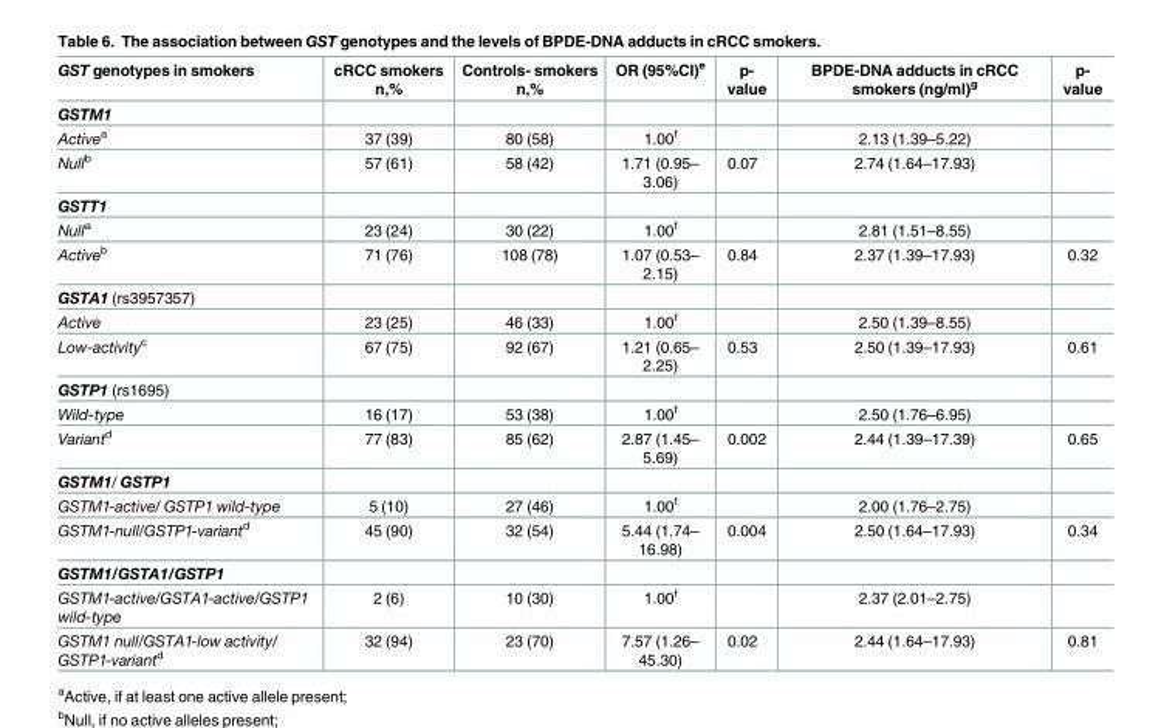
<table><thead><tr><td>GST genotypes in smokers</td><td>cRCC smokers n,%</td><td>Controls- smokers n,%</td><td>OR (95%CI)e</td><td>p- value</td><td>BPDE-DNA adducts in cRCC smokers (ng/ml)g</td><td>p- value</td></tr></thead><tbody><tr><td colspan="7">GSTM1</td></tr><tr><td>Activea</td><td>37 (39)</td><td>80 (58)</td><td>1.00f</td><td></td><td>2.13 (1.39–5.22)</td><td></td></tr><tr><td>Nullb</td><td>57 (61)</td><td>58 (42)</td><td>1.71 (0.95– 3.06)</td><td>0.07</td><td>2.74 (1.64–17.93)</td><td></td></tr><tr><td colspan="7">GSTT1</td></tr><tr><td>Nulla</td><td>23 (24)</td><td>30 (22)</td><td>1.00f</td><td></td><td>2.81 (1.51–8.55)</td><td></td></tr><tr><td>Activeb</td><td>71 (76)</td><td>108 (78)</td><td>1.07 (0.53– 2.15)</td><td>0.84</td><td>2.37 (1.39–17.93)</td><td>0.32</td></tr><tr><td colspan="7">GSTA1 (rs3957357)</td></tr><tr><td>Active</td><td>23 (25)</td><td>46 (33)</td><td>1.00f</td><td></td><td>2.50 (1.39–8.55)</td><td></td></tr><tr><td>Low-activityc</td><td>67 (75)</td><td>92 (67)</td><td>1.21 (0.65– 2.25)</td><td>0.53</td><td>2.50 (1.39–17.93)</td><td>0.61</td></tr><tr><td colspan="7">GSTP1 (rs1695)</td></tr><tr><td>Wild-type</td><td>16 (17)</td><td>53 (38)</td><td>1.00f</td><td></td><td>2.50 (1.76–6.95)</td><td></td></tr><tr><td>Variantd</td><td>77 (83)</td><td>85 (62)</td><td>2.87 (1.45– 5.69)</td><td>0.002</td><td>2.44 (1.39–17.39)</td><td>0.65</td></tr><tr><td colspan="7">GSTM1/ GSTP1</td></tr><tr><td>GSTM1-active/ GSTP1 wild-type</td><td>5 (10)</td><td>27 (46)</td><td>1.00f</td><td></td><td>2.00 (1.76–2.75)</td><td></td></tr><tr><td>GSTM1-null/GSTP1-variantd</td><td>45 (90)</td><td>32 (54)</td><td>5.44 (1.74– 16.98)</td><td>0.004</td><td>2.50 (1.64–17.93)</td><td>0.34</td></tr><tr><td colspan="7">GSTM1/GSTA1/GSTP1</td></tr><tr><td>GSTM1-active/GSTA1-active/GSTP1 wild-type</td><td>2 (6)</td><td>10 (30)</td><td>1.00f</td><td></td><td>2.37 (2.01–2.75)</td><td></td></tr><tr><td>GSTM1 null/GSTA1-low activity/ GSTP1-variantd</td><td>32 (94)</td><td>23 (70)</td><td>7.57 (1.26– 45.30)</td><td>0.02</td><td>2.44 (1.64–17.93)</td><td>0.81</td></tr></tbody></table>